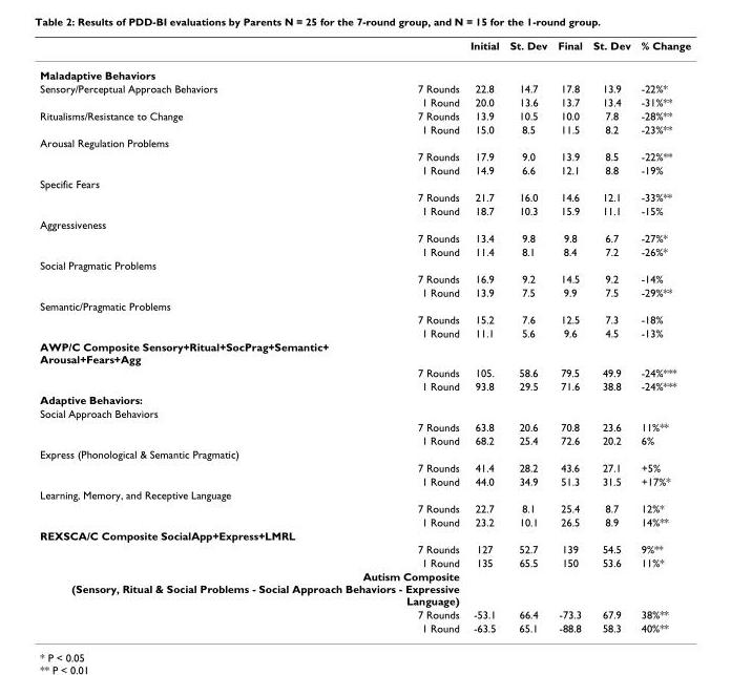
<table><thead><tr><td></td><td></td><td>Initial</td><td>St. Dev</td><td>Final</td><td>St. Dev</td><td>% Change</td></tr></thead><tbody><tr><td colspan="7">Maladaptive Behaviors</td></tr><tr><td rowspan="2">Sensory/Perceptual Approach Behaviors</td><td>7 Rounds</td><td>22.8</td><td>14.7</td><td>17.8</td><td>13.9</td><td>-22%*</td></tr><tr><td>1 Round</td><td>20.0</td><td>13.6</td><td>13.7</td><td>13.4</td><td>-31%**</td></tr><tr><td rowspan="2">Ritualisms/Resistance to Change</td><td>7 Rounds</td><td>13.9</td><td>10.5</td><td>10.0</td><td>7.8</td><td>-28%**</td></tr><tr><td>1 Round</td><td>15.0</td><td>8.5</td><td>11.5</td><td>8.2</td><td>-23%**</td></tr><tr><td colspan="7">Arousal Regulation Problems</td></tr><tr><td></td><td>7 Rounds</td><td>17.9</td><td>9.0</td><td>13.9</td><td>8.5</td><td>-22%**</td></tr><tr><td></td><td>1 Round</td><td>14.9</td><td>6.6</td><td>12.1</td><td>8.8</td><td>-19%</td></tr><tr><td colspan="7">Specific Fears</td></tr><tr><td></td><td>7 Rounds</td><td>21.7</td><td>16.0</td><td>14.6</td><td>12.1</td><td>-33%**</td></tr><tr><td></td><td>1 Round</td><td>18.7</td><td>10.3</td><td>15.9</td><td>11.1</td><td>-15%</td></tr><tr><td colspan="7">Aggressiveness</td></tr><tr><td></td><td>7 Rounds</td><td>13.4</td><td>9.8</td><td>9.8</td><td>6.7</td><td>-27%*</td></tr><tr><td></td><td>1 Round</td><td>11.4</td><td>8.1</td><td>8.4</td><td>7.2</td><td>-26%*</td></tr><tr><td colspan="7">Social Pragmatic Problems</td></tr><tr><td></td><td>7 Rounds</td><td>16.9</td><td>9.2</td><td>14.5</td><td>9.2</td><td>-14%</td></tr><tr><td></td><td>1 Round</td><td>13.9</td><td>7.5</td><td>9.9</td><td>7.5</td><td>-29%**</td></tr><tr><td colspan="7">Semantic/Pragmatic Problems</td></tr><tr><td></td><td>7 Rounds</td><td>15.2</td><td>7.6</td><td>12.5</td><td>7.3</td><td>-18%</td></tr><tr><td></td><td>1 Round</td><td>11.1</td><td>5.6</td><td>9.6</td><td>4.5</td><td>-13%</td></tr><tr><td colspan="7">AWP/C Composite Sensory+Ritual+SocPrag+Semantic+ Arousal+Fears+Agg</td></tr><tr><td></td><td>7 Rounds</td><td>105.</td><td>58.6</td><td>79.5</td><td>49.9</td><td>-24%***</td></tr><tr><td></td><td>1 Round</td><td>93.8</td><td>29.5</td><td>71.6</td><td>38.8</td><td>-24%***</td></tr><tr><td colspan="7">Adaptive Behaviors:</td></tr><tr><td colspan="7">Social Approach Behaviors</td></tr><tr><td></td><td>7 Rounds</td><td>63.8</td><td>20.6</td><td>70.8</td><td>23.6</td><td>11%**</td></tr><tr><td></td><td>1 Round</td><td>68.2</td><td>25.4</td><td>72.6</td><td>20.2</td><td>6%</td></tr><tr><td colspan="7">Express (Phonological &amp; Semantic Pragmatic)</td></tr><tr><td></td><td>7 Rounds</td><td>41.4</td><td>28.2</td><td>43.6</td><td>27.1</td><td>+5%</td></tr><tr><td></td><td>1 Round</td><td>44.0</td><td>34.9</td><td>51.3</td><td>31.5</td><td>+17%*</td></tr><tr><td colspan="7">Learning, Memory, and Receptive Language</td></tr><tr><td></td><td>7 Rounds</td><td>22.7</td><td>8.1</td><td>25.4</td><td>8.7</td><td>12%*</td></tr><tr><td></td><td>1 Round</td><td>23.2</td><td>10.1</td><td>26.5</td><td>8.9</td><td>14%**</td></tr><tr><td colspan="7">REXSCA/C Composite SocialApp+Express+LMRL</td></tr><tr><td></td><td>7 Rounds</td><td>127</td><td>52.7</td><td>139</td><td>54.5</td><td>9%**</td></tr><tr><td></td><td>1 Round</td><td>135</td><td>65.5</td><td>150</td><td>53.6</td><td>11%*</td></tr><tr><td colspan="7">Autism Composite (Sensory, Ritual &amp; Social Problems - Social Approach Behaviors - Expressive Language)</td></tr><tr><td></td><td>7 Rounds</td><td>-53.1</td><td>66.4</td><td>-73.3</td><td>67.9</td><td>38%**</td></tr><tr><td></td><td>1 Round</td><td>-63.5</td><td>65.1</td><td>-88.8</td><td>58.3</td><td>40%**</td></tr></tbody></table>